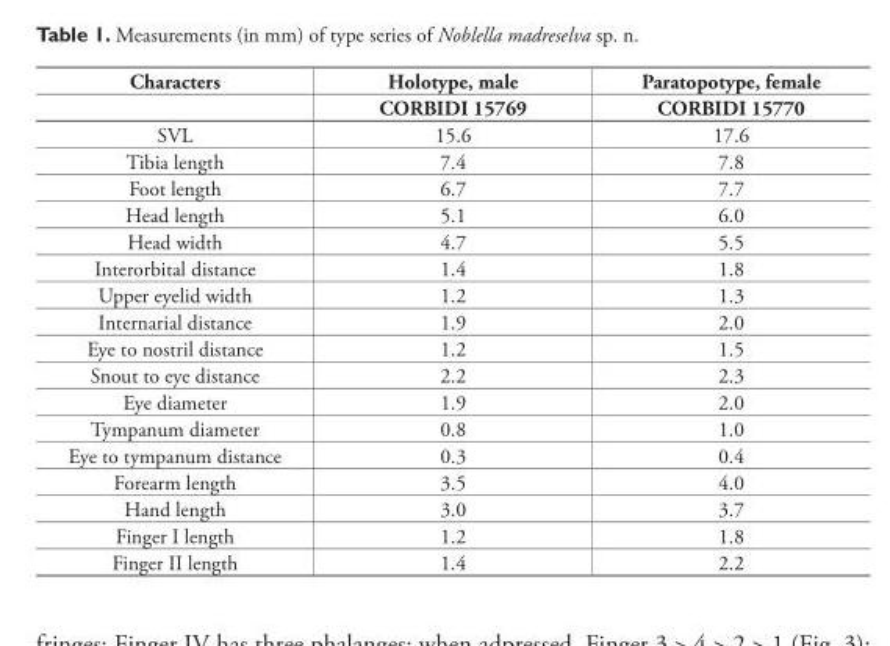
<table><thead><tr><td rowspan="2">Characters</td><td rowspan="2">Holotype, male CORBIDI 15769</td><td rowspan="2">Paratopotype, female CORBIDI 15770</td></tr><tr></tr></thead><tbody><tr><td>SVL</td><td>15.6</td><td>17.6</td></tr><tr><td>Tibia length</td><td>7.4</td><td>7.8</td></tr><tr><td>Foot length</td><td>6.7</td><td>7.7</td></tr><tr><td>Head length</td><td>5.1</td><td>6.0</td></tr><tr><td>Head width</td><td>4.7</td><td>5.5</td></tr><tr><td>Interorbital distance</td><td>1.4</td><td>1.8</td></tr><tr><td>Upper eyelid width</td><td>1.2</td><td>1.3</td></tr><tr><td>Internarial distance</td><td>1.9</td><td>2.0</td></tr><tr><td>Eye to nostril distance</td><td>1.2</td><td>1.5</td></tr><tr><td>Snout to eye distance</td><td>2.2</td><td>2.3</td></tr><tr><td>Eye diameter</td><td>1.9</td><td>2.0</td></tr><tr><td>Tympanum diameter</td><td>0.8</td><td>1.0</td></tr><tr><td>Eye to tympanum distance</td><td>0.3</td><td>0.4</td></tr><tr><td>Forearm length</td><td>3.5</td><td>4.0</td></tr><tr><td>Hand length</td><td>3.0</td><td>3.7</td></tr><tr><td>Finger I length</td><td>1.2</td><td>1.8</td></tr><tr><td>Finger II length</td><td>1.4</td><td>2.2</td></tr></tbody></table>